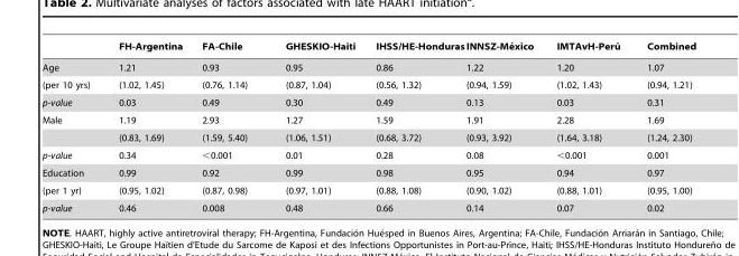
<table><thead><tr><td></td><td>FH-Argentina</td><td>FA-Chile</td><td>GHESKIO-Haiti</td><td>IHSS/HE-Honduras</td><td>INNSZ-Me´xico</td><td>IMTAvH-Peru´</td><td>Combined</td></tr></thead><tbody><tr><td>Age</td><td>1.21</td><td>0.93</td><td>0.95</td><td>0.86</td><td>1.22</td><td>1.20</td><td>1.07</td></tr><tr><td>(per 10 yrs)</td><td>(1.02, 1.45)</td><td>(0.76, 1.14)</td><td>(0.87, 1.04)</td><td>(0.56, 1.32)</td><td>(0.94, 1.59)</td><td>(1.02, 1.43)</td><td>(0.94, 1.21)</td></tr><tr><td>p-value</td><td>0.03</td><td>0.49</td><td>0.30</td><td>0.49</td><td>0.13</td><td>0.03</td><td>0.31</td></tr><tr><td rowspan="2">Male</td><td>1.19</td><td>2.93</td><td>1.27</td><td>1.59</td><td>1.91</td><td>2.28</td><td>1.69</td></tr><tr><td>(0.83, 1.69)</td><td>(1.59, 5.40)</td><td>(1.06, 1.51)</td><td>(0.68, 3.72)</td><td>(0.93, 3.92)</td><td>(1.64, 3.18)</td><td>(1.24, 2.30)</td></tr><tr><td>p-value</td><td>0.34</td><td>&lt;0.001</td><td>0.01</td><td>0.28</td><td>0.08</td><td>&lt;0.001</td><td>0.001</td></tr><tr><td>Education</td><td>0.99</td><td>0.92</td><td>0.99</td><td>0.98</td><td>0.95</td><td>0.94</td><td>0.97</td></tr><tr><td>(per 1 yr)</td><td>(0.95, 1.02)</td><td>(0.87, 0.98)</td><td>(0.97, 1.01)</td><td>(0.88, 1.08)</td><td>(0.90, 1.02)</td><td>(0.88, 1.01)</td><td>(0.95, 1.00)</td></tr><tr><td>p-value</td><td>0.46</td><td>0.008</td><td>0.48</td><td>0.66</td><td>0.14</td><td>0.07</td><td>0.02</td></tr></tbody></table>